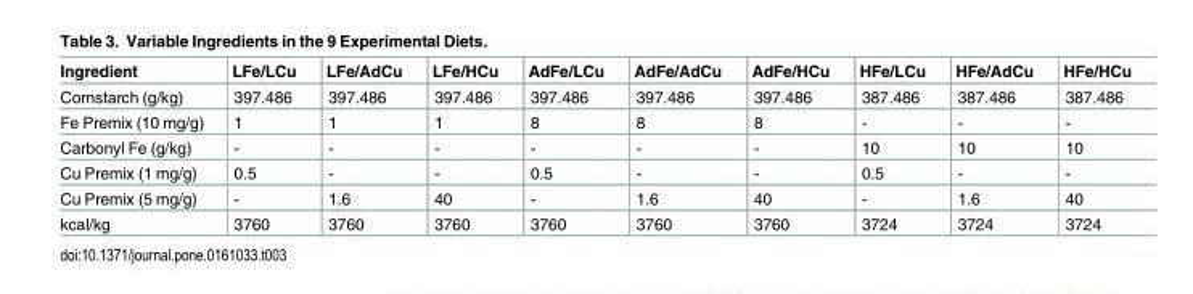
<table><thead><tr><td>Ingredient</td><td>LFe/LCu</td><td>LFe/AdCu</td><td>LFe/HCu</td><td>AdFe/LCu</td><td>AdFe/AdCu</td><td>AdFe/HCu</td><td>HFe/LCu</td><td>HFe/AdCu</td><td>HFe/HCu</td></tr></thead><tbody><tr><td>Cornstarch (g/kg)</td><td>397.486</td><td>397.486</td><td>397.486</td><td>397.486</td><td>397.486</td><td>397.486</td><td>387.486</td><td>387.486</td><td>387.486</td></tr><tr><td>Fe Premix (10 mg/g)</td><td>1</td><td>1</td><td>1</td><td>8</td><td>8</td><td>8</td><td>-</td><td>-</td><td>-</td></tr><tr><td>Carbonyl Fe (g/kg)</td><td>-</td><td>-</td><td>-</td><td>-</td><td>-</td><td>-</td><td>10</td><td>10</td><td>10</td></tr><tr><td>Cu Premix (1 mg/g)</td><td>0.5</td><td>-</td><td>-</td><td>0.5</td><td>-</td><td>-</td><td>0.5</td><td>-</td><td>-</td></tr><tr><td>Cu Premix (5 mg/g)</td><td>-</td><td>1.6</td><td>40</td><td>-</td><td>1.6</td><td>40</td><td>-</td><td>1.6</td><td>40</td></tr><tr><td>kcal/kg</td><td>3760</td><td>3760</td><td>3760</td><td>3760</td><td>3760</td><td>3760</td><td>3724</td><td>3724</td><td>3724</td></tr></tbody></table>